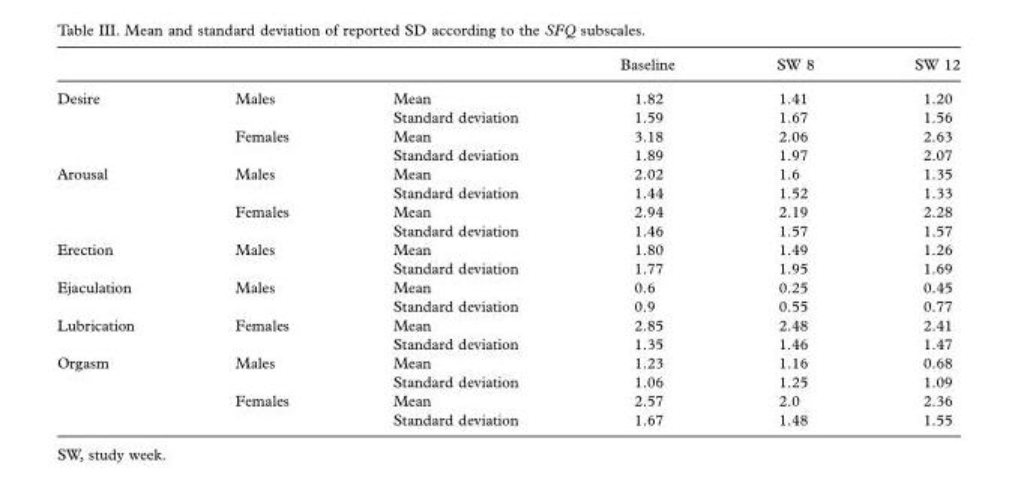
<table><thead><tr><td></td><td></td><td></td><td>Baseline</td><td>SW 8</td><td>SW 12</td></tr></thead><tbody><tr><td rowspan="4">Desire</td><td>Males</td><td>Mean</td><td>1.82</td><td>1.41</td><td>1.20</td></tr><tr><td></td><td>Standard deviation</td><td>1.59</td><td>1.67</td><td>1.56</td></tr><tr><td>Females</td><td>Mean</td><td>3.18</td><td>2.06</td><td>2.63</td></tr><tr><td></td><td>Standard deviation</td><td>1.89</td><td>1.97</td><td>2.07</td></tr><tr><td rowspan="4">Arousal</td><td>Males</td><td>Mean</td><td>2.02</td><td>1.6</td><td>1.35</td></tr><tr><td></td><td>Standard deviation</td><td>1.44</td><td>1.52</td><td>1.33</td></tr><tr><td>Females</td><td>Mean</td><td>2.94</td><td>2.19</td><td>2.28</td></tr><tr><td></td><td>Standard deviation</td><td>1.46</td><td>1.57</td><td>1.57</td></tr><tr><td rowspan="2">Erection</td><td>Males</td><td>Mean</td><td>1.80</td><td>1.49</td><td>1.26</td></tr><tr><td></td><td>Standard deviation</td><td>1.77</td><td>1.95</td><td>1.69</td></tr><tr><td rowspan="2">Ejaculation</td><td>Males</td><td>Mean</td><td>0.6</td><td>0.25</td><td>0.45</td></tr><tr><td></td><td>Standard deviation</td><td>0.9</td><td>0.55</td><td>0.77</td></tr><tr><td rowspan="2">Lubrication</td><td>Females</td><td>Mean</td><td>2.85</td><td>2.48</td><td>2.41</td></tr><tr><td></td><td>Standard deviation</td><td>1.35</td><td>1.46</td><td>1.47</td></tr><tr><td rowspan="4">Orgasm</td><td>Males</td><td>Mean</td><td>1.23</td><td>1.16</td><td>0.68</td></tr><tr><td></td><td>Standard deviation</td><td>1.06</td><td>1.25</td><td>1.09</td></tr><tr><td>Females</td><td>Mean</td><td>2.57</td><td>2.0</td><td>2.36</td></tr><tr><td></td><td>Standard deviation</td><td>1.67</td><td>1.48</td><td>1.55</td></tr></tbody></table>